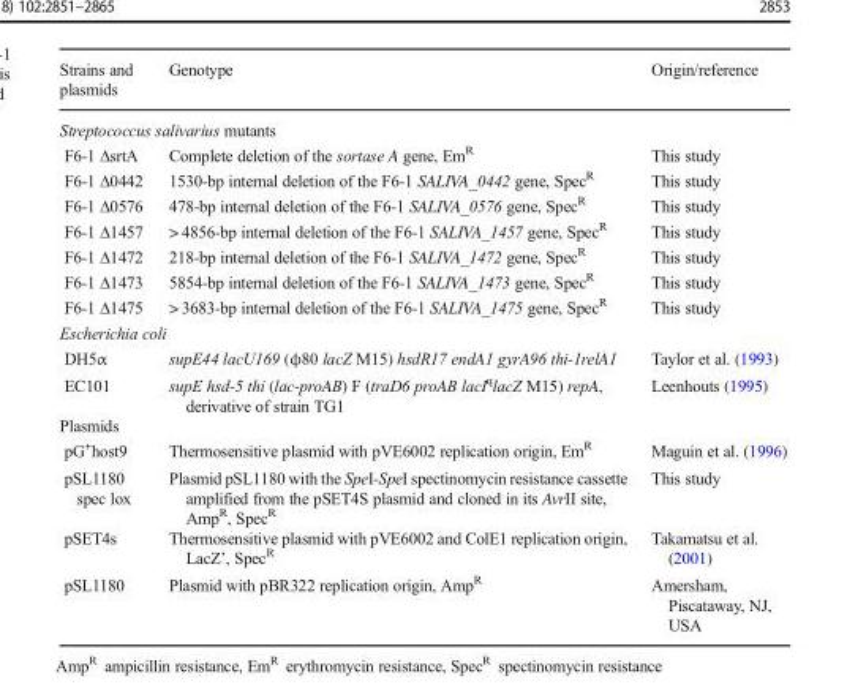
<table><thead><tr><td>Strains and plasmids</td><td>Genotype</td><td>Origin/reference</td></tr></thead><tbody><tr><td colspan="3">Streptococcus salivarius mutants</td></tr><tr><td>F6-1 ΔsrtA</td><td>Complete deletion of the sortase A gene, Em<sup>R</sup></td><td>This study</td></tr><tr><td>F6-1 Δ0442</td><td>1530-bp internal deletion of the F6-1 SALIVA_0442 gene, Spec<sup>R</sup></td><td>This study</td></tr><tr><td>F6-1 Δ0576</td><td>478-bp internal deletion of the F6-1 SALIVA_0576 gene, Spec<sup>R</sup></td><td>This study</td></tr><tr><td>F6-1 Δ1457</td><td>&gt; 4856-bp internal deletion of the F6-1 SALIVA_1457 gene, Spec<sup>R</sup></td><td>This study</td></tr><tr><td>F6-1 Δ1472</td><td>218-bp internal deletion of the F6-1 SALIVA_1472 gene, Spec<sup>R</sup></td><td>This study</td></tr><tr><td>F6-1 Δ1473</td><td>5854-bp internal deletion of the F6-1 SALIVA_1473 gene, Spec<sup>R</sup></td><td>This study</td></tr><tr><td>F6-1 Δ1475</td><td>&gt; 3683-bp internal deletion of the F6-1 SALIVA_1475 gene, Spec<sup>R</sup></td><td>This study</td></tr><tr><td colspan="3">Escherichia coli</td></tr><tr><td>DH5α</td><td>supE44 lacU169 (ϕ80 lacZ M15) hsdR17 endA1 gyrA96 thi-1relA1</td><td>Taylor et al. (1993)</td></tr><tr><td>EC101</td><td>supE hsd-5 thi (lac-proAB) F (traD6 proAB lacI<sup>q</sup>lacZ M15) repA, derivative of strain TG1</td><td>Leenhouts (1995)</td></tr><tr><td colspan="3">Plasmids</td></tr><tr><td>pG<sup>+</sup>host9</td><td>Thermosensitive plasmid with pVE6002 replication origin, Em<sup>R</sup></td><td>Maguin et al. (1996)</td></tr><tr><td>pSL1180 spec lox</td><td>Plasmid pSL1180 with the SpeI-SpeI spectinomycin resistance cassette amplified from the pSET4S plasmid and cloned in its AvrII site, Amp<sup>R</sup>, Spec<sup>R</sup></td><td>This study</td></tr><tr><td>pSET4s</td><td>Thermosensitive plasmid with pVE6002 and ColE1 replication origin, LacZ’, Spec<sup>R</sup></td><td>Takamatsu et al. (2001)</td></tr><tr><td>pSL1180</td><td>Plasmid with pBR322 replication origin, Amp<sup>R</sup></td><td>Amersham, Piscataway, NJ, USA</td></tr></tbody></table>